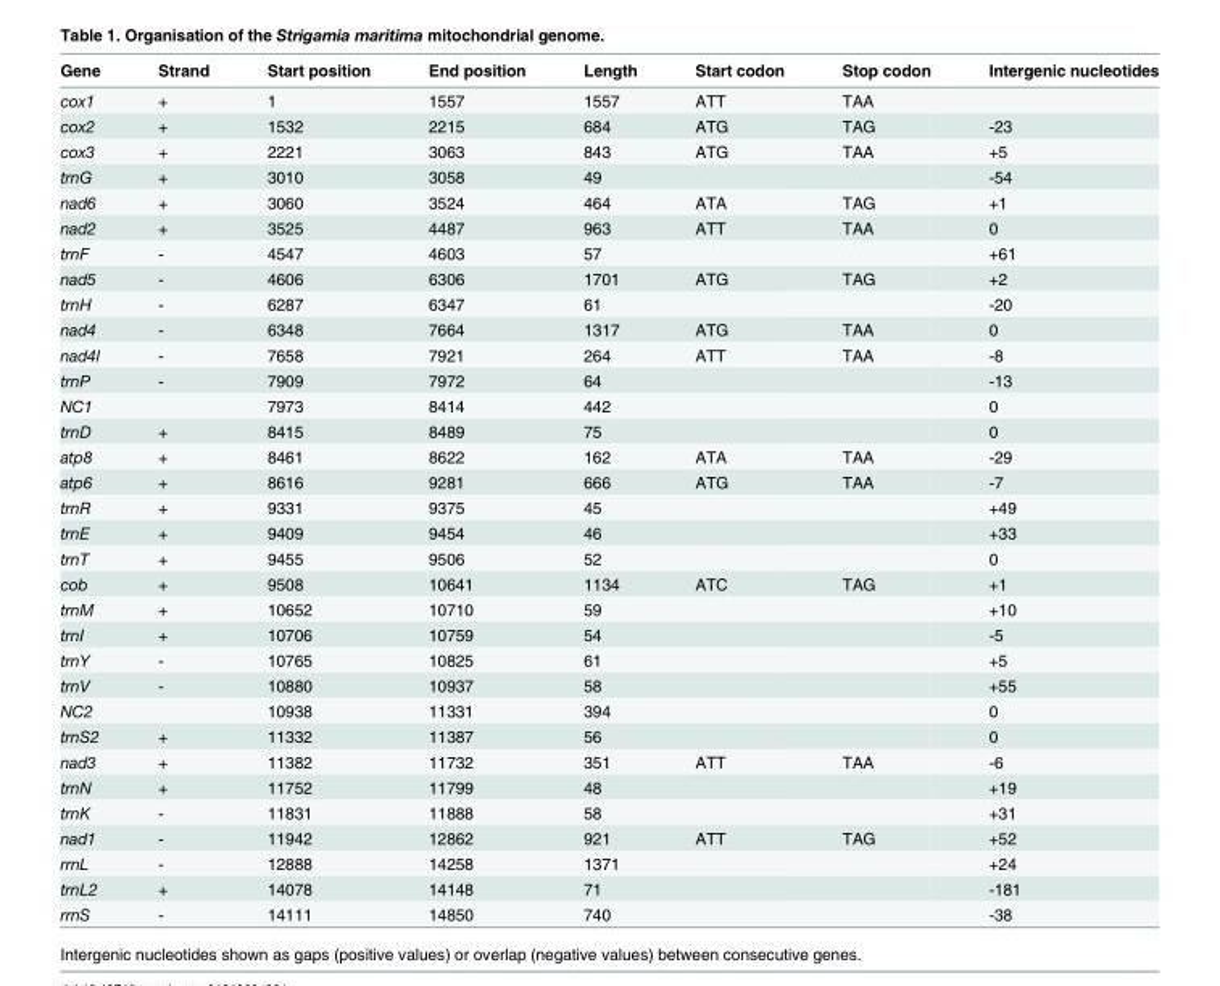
<table><thead><tr><td>Gene</td><td>Strand</td><td>Start position</td><td>End position</td><td>Length</td><td>Start codon</td><td>Stop codon</td><td>Intergenic nucleotides</td></tr></thead><tbody><tr><td>cox1</td><td>+</td><td>1</td><td>1557</td><td>1557</td><td>ATT</td><td>TAA</td><td></td></tr><tr><td>cox2</td><td>+</td><td>1532</td><td>2215</td><td>684</td><td>ATG</td><td>TAG</td><td>-23</td></tr><tr><td>cox3</td><td>+</td><td>2221</td><td>3063</td><td>843</td><td>ATG</td><td>TAA</td><td>+5</td></tr><tr><td>trnG</td><td>+</td><td>3010</td><td>3058</td><td>49</td><td></td><td></td><td>-54</td></tr><tr><td>nad6</td><td>+</td><td>3060</td><td>3524</td><td>464</td><td>ATA</td><td>TAG</td><td>+1</td></tr><tr><td>nad2</td><td>+</td><td>3525</td><td>4487</td><td>963</td><td>ATT</td><td>TAA</td><td>0</td></tr><tr><td>trnF</td><td>-</td><td>4547</td><td>4603</td><td>57</td><td></td><td></td><td>+61</td></tr><tr><td>nad5</td><td>-</td><td>4606</td><td>6306</td><td>1701</td><td>ATG</td><td>TAG</td><td>+2</td></tr><tr><td>trnH</td><td>-</td><td>6287</td><td>6347</td><td>61</td><td></td><td></td><td>-20</td></tr><tr><td>nad4</td><td>-</td><td>6348</td><td>7664</td><td>1317</td><td>ATG</td><td>TAA</td><td>0</td></tr><tr><td>nad4l</td><td>-</td><td>7658</td><td>7921</td><td>264</td><td>ATT</td><td>TAA</td><td>-8</td></tr><tr><td>trnP</td><td>-</td><td>7909</td><td>7972</td><td>64</td><td></td><td></td><td>-13</td></tr><tr><td>NC1</td><td></td><td>7973</td><td>8414</td><td>442</td><td></td><td></td><td>0</td></tr><tr><td>trnD</td><td>+</td><td>8415</td><td>8489</td><td>75</td><td></td><td></td><td>0</td></tr><tr><td>atp8</td><td>+</td><td>8461</td><td>8622</td><td>162</td><td>ATA</td><td>TAA</td><td>-29</td></tr><tr><td>atp6</td><td>+</td><td>8616</td><td>9281</td><td>666</td><td>ATG</td><td>TAA</td><td>-7</td></tr><tr><td>trnR</td><td>+</td><td>9331</td><td>9375</td><td>45</td><td></td><td></td><td>+49</td></tr><tr><td>trnE</td><td>+</td><td>9409</td><td>9454</td><td>46</td><td></td><td></td><td>+33</td></tr><tr><td>trnT</td><td>+</td><td>9455</td><td>9506</td><td>52</td><td></td><td></td><td>0</td></tr><tr><td>cob</td><td>+</td><td>9508</td><td>10641</td><td>1134</td><td>ATC</td><td>TAG</td><td>+1</td></tr><tr><td>trnM</td><td>+</td><td>10652</td><td>10710</td><td>59</td><td></td><td></td><td>+10</td></tr><tr><td>trnI</td><td>+</td><td>10706</td><td>10759</td><td>54</td><td></td><td></td><td>-5</td></tr><tr><td>trnY</td><td>-</td><td>10765</td><td>10825</td><td>61</td><td></td><td></td><td>+5</td></tr><tr><td>trnV</td><td>-</td><td>10880</td><td>10937</td><td>58</td><td></td><td></td><td>+55</td></tr><tr><td>NC2</td><td></td><td>10938</td><td>11331</td><td>394</td><td></td><td></td><td>0</td></tr><tr><td>trnS2</td><td>+</td><td>11332</td><td>11387</td><td>56</td><td></td><td></td><td>0</td></tr><tr><td>nad3</td><td>+</td><td>11382</td><td>11732</td><td>351</td><td>ATT</td><td>TAA</td><td>-6</td></tr><tr><td>trnN</td><td>+</td><td>11752</td><td>11799</td><td>48</td><td></td><td></td><td>+19</td></tr><tr><td>trnK</td><td>-</td><td>11831</td><td>11888</td><td>58</td><td></td><td></td><td>+31</td></tr><tr><td>nad1</td><td>-</td><td>11942</td><td>12862</td><td>921</td><td>ATT</td><td>TAG</td><td>+52</td></tr><tr><td>rrnL</td><td>-</td><td>12888</td><td>14258</td><td>1371</td><td></td><td></td><td>+24</td></tr><tr><td>trnL2</td><td>+</td><td>14078</td><td>14148</td><td>71</td><td></td><td></td><td>-181</td></tr><tr><td>rrnS</td><td>-</td><td>14111</td><td>14850</td><td>740</td><td></td><td></td><td>-38</td></tr></tbody></table>